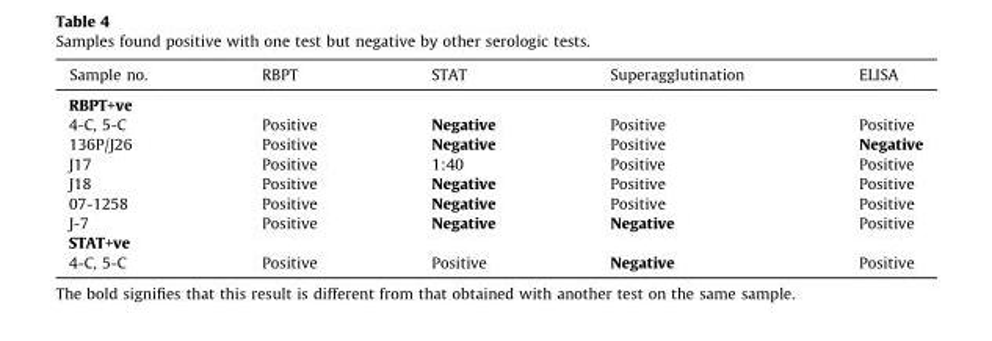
<table><thead><tr><td>Sample no.</td><td>RBPT</td><td>STAT</td><td>Superagglutination</td><td>ELISA</td></tr></thead><tbody><tr><td colspan="5">RBPT+ve</td></tr><tr><td>4-C, 5-C</td><td>Positive</td><td>Negative</td><td>Positive</td><td>Positive</td></tr><tr><td>136P/J26</td><td>Positive</td><td>Negative</td><td>Positive</td><td>Negative</td></tr><tr><td>J17</td><td>Positive</td><td>1:40</td><td>Positive</td><td>Positive</td></tr><tr><td>J18</td><td>Positive</td><td>Negative</td><td>Positive</td><td>Positive</td></tr><tr><td>07-1258</td><td>Positive</td><td>Negative</td><td>Positive</td><td>Positive</td></tr><tr><td>J-7</td><td>Positive</td><td>Negative</td><td>Negative</td><td>Positive</td></tr><tr><td colspan="5">STAT+ve</td></tr><tr><td>4-C, 5-C</td><td>Positive</td><td>Positive</td><td>Negative</td><td>Positive</td></tr></tbody></table>